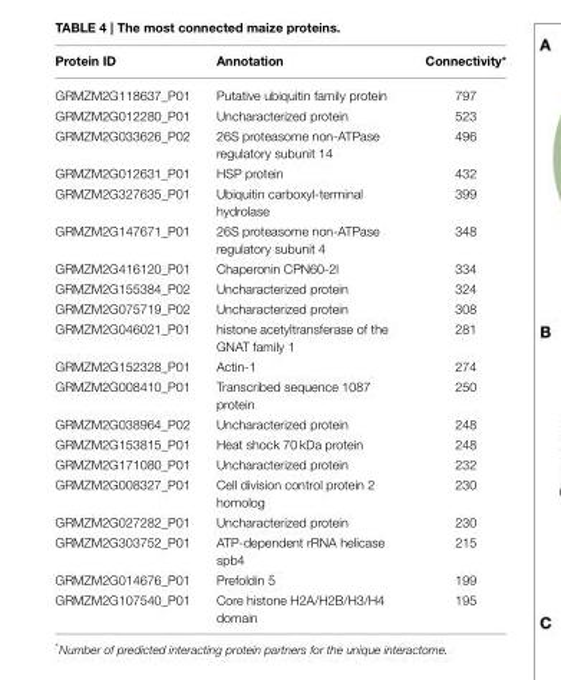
<table><thead><tr><td>Protein ID</td><td>Annotation</td><td>Connectivity*</td></tr></thead><tbody><tr><td>GRMZM2G118637_P01</td><td>Putative ubiquitin family protein</td><td>797</td></tr><tr><td>GRMZM2G012280_P01</td><td>Uncharacterized protein</td><td>523</td></tr><tr><td>GRMZM2G033626_P02</td><td>26S proteasome non-ATPase regulatory subunit 14</td><td>496</td></tr><tr><td>GRMZM2G012631_P01</td><td>HSP protein</td><td>432</td></tr><tr><td>GRMZM2G327635_P01</td><td>Ubiquitin carboxyl-terminal hydrolase</td><td>399</td></tr><tr><td>GRMZM2G147671_P01</td><td>26S proteasome non-ATPase regulatory subunit 4</td><td>348</td></tr><tr><td>GRMZM2G416120_P01</td><td>Chaperonin CPN60-2l</td><td>334</td></tr><tr><td>GRMZM2G155384_P02</td><td>Uncharacterized protein</td><td>324</td></tr><tr><td>GRMZM2G075719_P02</td><td>Uncharacterized protein</td><td>308</td></tr><tr><td>GRMZM2G046021_P01</td><td>histone acetyltransferase of the GNAT family 1</td><td>281</td></tr><tr><td>GRMZM2G152328_P01</td><td>Actin-1</td><td>274</td></tr><tr><td>GRMZM2G008410_P01</td><td>Transcribed sequence 1087 protein</td><td>250</td></tr><tr><td>GRMZM2G038964_P02</td><td>Uncharacterized protein</td><td>248</td></tr><tr><td>GRMZM2G153815_P01</td><td>Heat shock 70 kDa protein</td><td>248</td></tr><tr><td>GRMZM2G171080_P01</td><td>Uncharacterized protein</td><td>232</td></tr><tr><td>GRMZM2G008327_P01</td><td>Cell division control protein 2 homolog</td><td>230</td></tr><tr><td>GRMZM2G027282_P01</td><td>Uncharacterized protein</td><td>230</td></tr><tr><td>GRMZM2G303752_P01</td><td>ATP-dependent rRNA helicase spb4</td><td>215</td></tr><tr><td>GRMZM2G014676_P01</td><td>Prefoldin 5</td><td>199</td></tr><tr><td>GRMZM2G107540_P01</td><td>Core histone H2A/H2B/H3/H4 domain</td><td>195</td></tr></tbody></table>